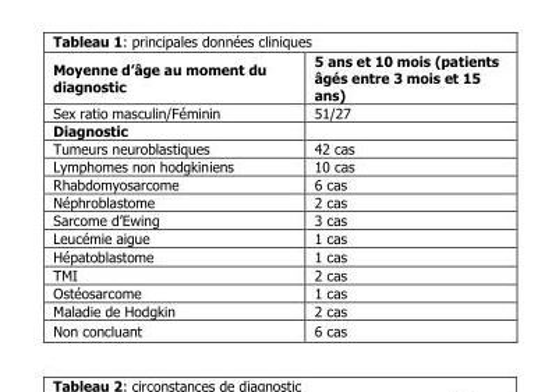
<table><thead><tr><td>Moyenne d’âge au moment du diagnostic</td><td>5 ans et 10 mois (patients âgés entre 3 mois et 15 ans)</td></tr></thead><tbody><tr><td>Sex ratio masculin/Féminin</td><td>51/27</td></tr><tr><td colspan="2">Diagnostic</td></tr><tr><td>Tumeurs neuroblastiques</td><td>42 cas</td></tr><tr><td>Lymphomes non hodgkiniens</td><td>10 cas</td></tr><tr><td>Rhabdomyosarcome</td><td>6 cas</td></tr><tr><td>Néphroblastome</td><td>2 cas</td></tr><tr><td>Sarcome d’Ewing</td><td>3 cas</td></tr><tr><td>Leucémie aigue</td><td>1 cas</td></tr><tr><td>Hépatoblastome</td><td>1 cas</td></tr><tr><td>TMI</td><td>2 cas</td></tr><tr><td>Ostéosarcome</td><td>1 cas</td></tr><tr><td>Maladie de Hodgkin</td><td>2 cas</td></tr><tr><td>Non concluant</td><td>6 cas</td></tr></tbody></table>